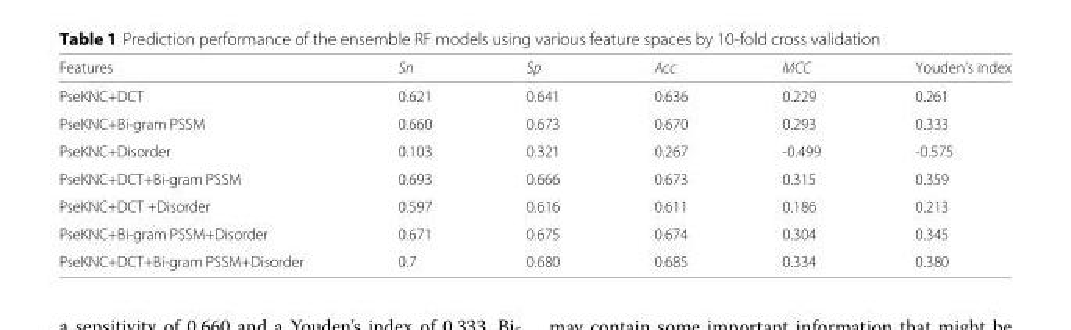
<table><thead><tr><td>Features</td><td>Sn</td><td>Sp</td><td>Acc</td><td>MCC</td><td>Youden’s index</td></tr></thead><tbody><tr><td>PseKNC+DCT</td><td>0.621</td><td>0.641</td><td>0.636</td><td>0.229</td><td>0.261</td></tr><tr><td>PseKNC+Bi-gram PSSM</td><td>0.660</td><td>0.673</td><td>0.670</td><td>0.293</td><td>0.333</td></tr><tr><td>PseKNC+Disorder</td><td>0.103</td><td>0.321</td><td>0.267</td><td>-0.499</td><td>-0.575</td></tr><tr><td>PseKNC+DCT+Bi-gram PSSM</td><td>0.693</td><td>0.666</td><td>0.673</td><td>0.315</td><td>0.359</td></tr><tr><td>PseKNC+DCT +Disorder</td><td>0.597</td><td>0.616</td><td>0.611</td><td>0.186</td><td>0.213</td></tr><tr><td>PseKNC+Bi-gram PSSM+Disorder</td><td>0.671</td><td>0.675</td><td>0.674</td><td>0.304</td><td>0.345</td></tr><tr><td>PseKNC+DCT+Bi-gram PSSM+Disorder</td><td>0.7</td><td>0.680</td><td>0.685</td><td>0.334</td><td>0.380</td></tr></tbody></table>